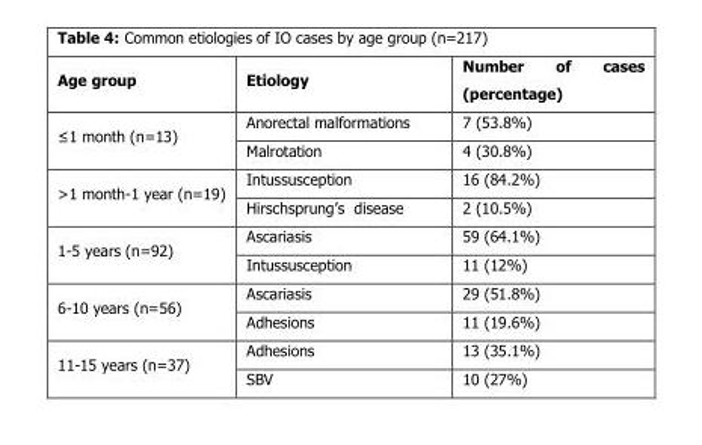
<table><thead><tr><td>Age group</td><td>Etiology</td><td>Number of cases (percentage)</td></tr></thead><tbody><tr><td rowspan="2">≤1 month (n=13)</td><td>Anorectal malformations</td><td>7 (53.8%)</td></tr><tr><td>Malrotation</td><td>4 (30.8%)</td></tr><tr><td rowspan="2">&gt;1 month-1 year (n=19)</td><td>Intussusception</td><td>16 (84.2%)</td></tr><tr><td>Hirschsprung’s disease</td><td>2 (10.5%)</td></tr><tr><td rowspan="2">1-5 years (n=92)</td><td>Ascariasis</td><td>59 (64.1%)</td></tr><tr><td>Intussusception</td><td>11 (12%)</td></tr><tr><td rowspan="2">6-10 years (n=56)</td><td>Ascariasis</td><td>29 (51.8%)</td></tr><tr><td>Adhesions</td><td>11 (19.6%)</td></tr><tr><td rowspan="2">11-15 years (n=37)</td><td>Adhesions</td><td>13 (35.1%)</td></tr><tr><td>SBV</td><td>10 (27%)</td></tr></tbody></table>